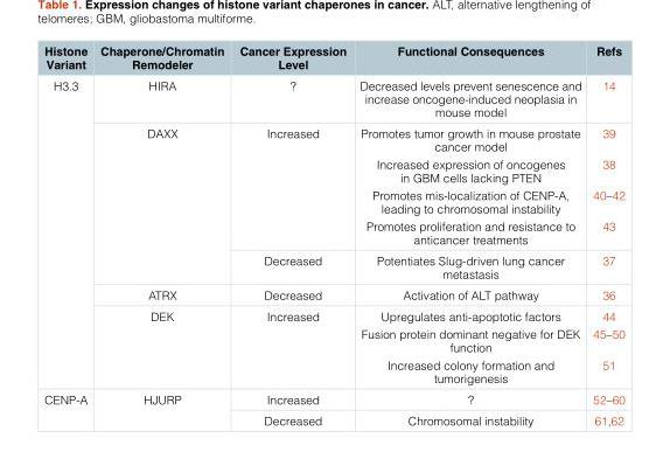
<table><thead><tr><td>Histone Variant</td><td>Chaperone/Chromatin Remodeler</td><td>Cancer Expression Level</td><td>Functional Consequences</td><td>Refs</td></tr></thead><tbody><tr><td rowspan="5">H3.3</td><td>HIRA</td><td>?</td><td>Decreased levels prevent senescence and increase oncogene-induced neoplasia in mouse model</td><td>14</td></tr><tr><td rowspan="2">DAXX</td><td>Increased</td><td>Promotes tumor growth in mouse prostate cancer model Increased expression of oncogenes in GBM cells lacking PTEN Promotes mis-localization of CENP-A, leading to chromosomal instability Promotes proliferation and resistance to anticancer treatments</td><td>39 38 40–42 43</td></tr><tr><td>Decreased</td><td>Potentiates Slug-driven lung cancer metastasis</td><td>37</td></tr><tr><td>ATRX</td><td>Decreased</td><td>Activation of ALT pathway</td><td>36</td></tr><tr><td>DEK</td><td>Increased</td><td>Upregulates anti-apoptotic factors Fusion protein dominant negative for DEK function Increased colony formation and tumorigenesis</td><td>44 45–50 51</td></tr><tr><td rowspan="2">CENP-A</td><td rowspan="2">HJURP</td><td>Increased</td><td>?</td><td>52–60</td></tr><tr><td>Decreased</td><td>Chromosomal instability</td><td>61,62</td></tr></tbody></table>